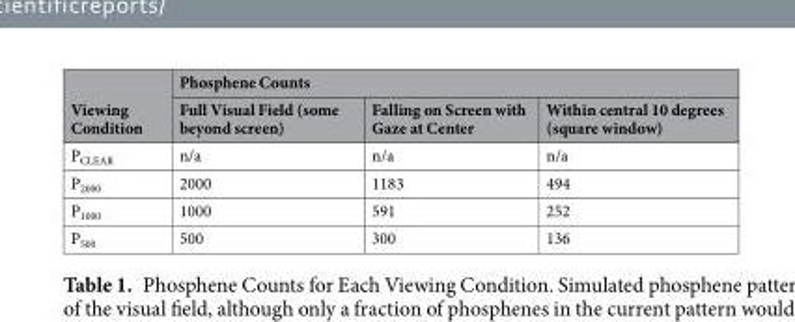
<table><thead><tr><td rowspan="2">Viewing Condition</td><td colspan="3">Phosphene Counts</td></tr><tr><td>Full Visual Field (some beyond screen)</td><td>Falling on Screen with Gaze at Center</td><td>Within central 10 degrees (square window)</td></tr></thead><tbody><tr><td>P<sub>CLEAR</sub></td><td>n/a</td><td>n/a</td><td>n/a</td></tr><tr><td>P<sub>2000</sub></td><td>2000</td><td>1183</td><td>494</td></tr><tr><td>P<sub>1000</sub></td><td>1000</td><td>591</td><td>252</td></tr><tr><td>P<sub>500</sub></td><td>500</td><td>300</td><td>136</td></tr></tbody></table>